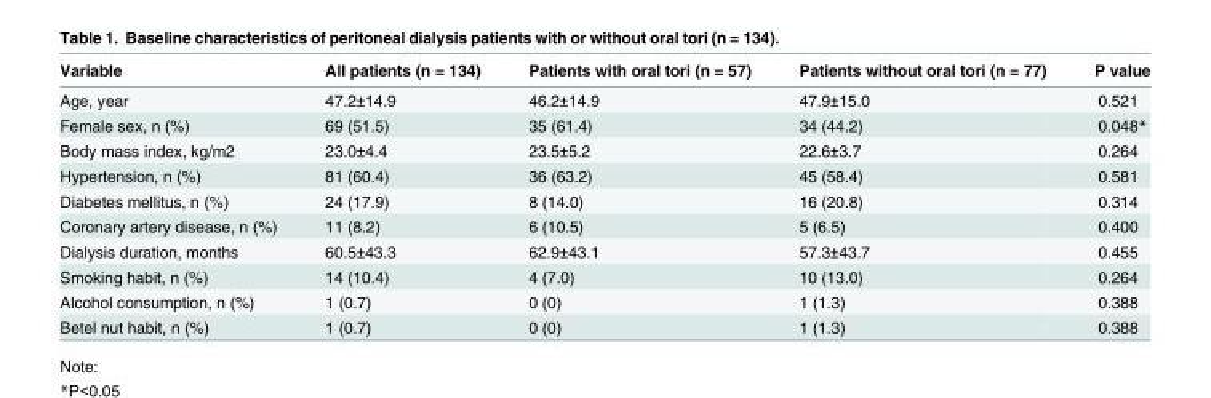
<table><thead><tr><td>Variable</td><td>All patients (n = 134)</td><td>Patients with oral tori (n = 57)</td><td>Patients without oral tori (n = 77)</td><td>P value</td></tr></thead><tbody><tr><td>Age, year</td><td>47.2±14.9</td><td>46.2±14.9</td><td>47.9±15.0</td><td>0.521</td></tr><tr><td>Female sex, n (%)</td><td>69 (51.5)</td><td>35 (61.4)</td><td>34 (44.2)</td><td>0.048*</td></tr><tr><td>Body mass index, kg/m2</td><td>23.0±4.4</td><td>23.5±5.2</td><td>22.6±3.7</td><td>0.264</td></tr><tr><td>Hypertension, n (%)</td><td>81 (60.4)</td><td>36 (63.2)</td><td>45 (58.4)</td><td>0.581</td></tr><tr><td>Diabetes mellitus, n (%)</td><td>24 (17.9)</td><td>8 (14.0)</td><td>16 (20.8)</td><td>0.314</td></tr><tr><td>Coronary artery disease, n (%)</td><td>11 (8.2)</td><td>6 (10.5)</td><td>5 (6.5)</td><td>0.400</td></tr><tr><td>Dialysis duration, months</td><td>60.5±43.3</td><td>62.9±43.1</td><td>57.3±43.7</td><td>0.455</td></tr><tr><td>Smoking habit, n (%)</td><td>14 (10.4)</td><td>4 (7.0)</td><td>10 (13.0)</td><td>0.264</td></tr><tr><td>Alcohol consumption, n (%)</td><td>1 (0.7)</td><td>0 (0)</td><td>1 (1.3)</td><td>0.388</td></tr><tr><td>Betel nut habit, n (%)</td><td>1 (0.7)</td><td>0 (0)</td><td>1 (1.3)</td><td>0.388</td></tr></tbody></table>